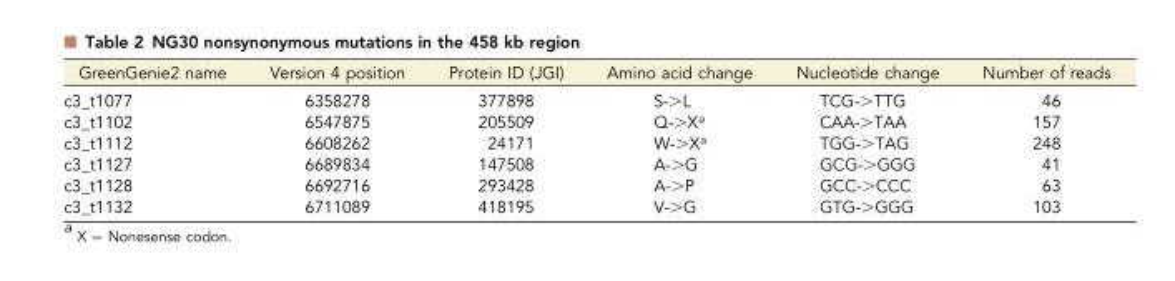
<table><thead><tr><td>GreenGenie2 name</td><td>Version 4 position</td><td>Protein ID (JGI)</td><td>Amino acid change</td><td>Nucleotide change</td><td>Number of reads</td></tr></thead><tbody><tr><td>c3_t1077</td><td>6358278</td><td>377898</td><td>S-&gt;L</td><td>TCG-&gt;TTG</td><td>46</td></tr><tr><td>c3_t1102</td><td>6547875</td><td>205509</td><td>Q-&gt;X<sup>a</sup></td><td>CAA-&gt;TAA</td><td>157</td></tr><tr><td>c3_t1112</td><td>6608262</td><td>24171</td><td>W-&gt;X<sup>a</sup></td><td>TGG-&gt;TAG</td><td>248</td></tr><tr><td>c3_t1127</td><td>6689834</td><td>147508</td><td>A-&gt;G</td><td>GCG-&gt;GGG</td><td>41</td></tr><tr><td>c3_t1128</td><td>6692716</td><td>293428</td><td>A-&gt;P</td><td>GCC-&gt;CCC</td><td>63</td></tr><tr><td>c3_t1132</td><td>6711089</td><td>418195</td><td>V-&gt;G</td><td>GTG-&gt;GGG</td><td>103</td></tr></tbody></table>